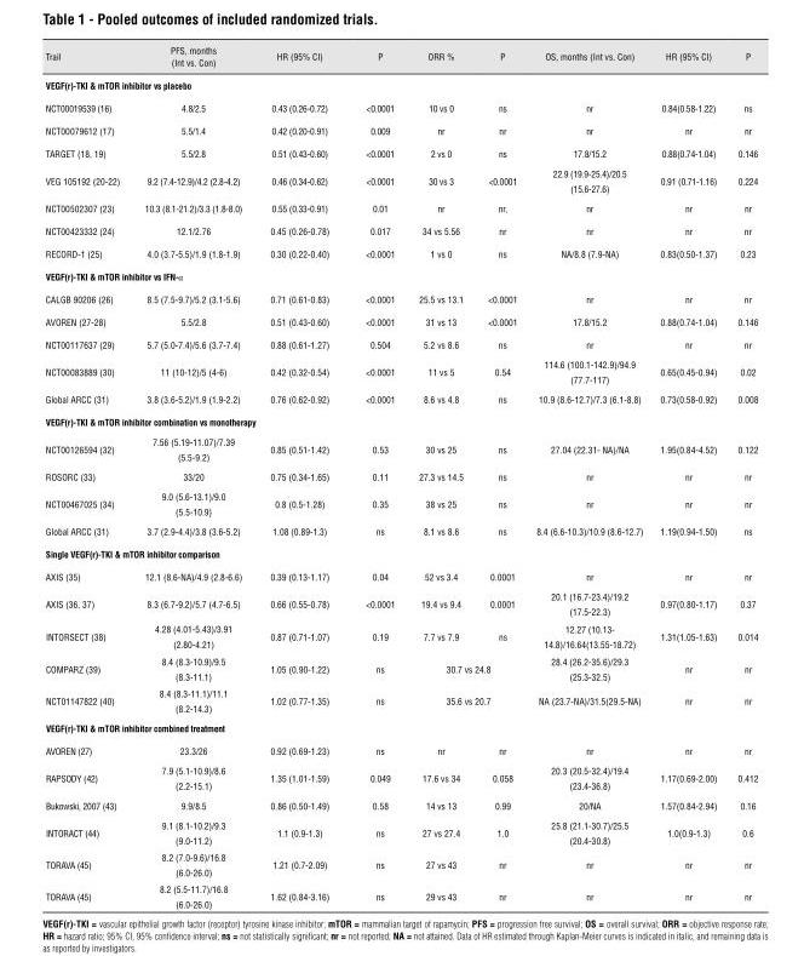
<table><thead><tr><td>Trail</td><td>PFS, months (Int vs. Con)</td><td>HR (95% CI)</td><td>P</td><td>ORR %</td><td>P</td><td>OS, months (Int vs. Con)</td><td>HR (95% CI)</td><td>P</td></tr></thead><tbody><tr><td colspan="9">vEGF(r)-TKI &amp; mTOR inhibitor vs placebo</td></tr><tr><td>NCT00019539 (16)</td><td>4.8/2.5</td><td>0.43 (0.26-0.72)</td><td>&lt;0.0001</td><td>10 vs 0</td><td>ns</td><td>nr</td><td>0.84(0.58-1.22)</td><td>ns</td></tr><tr><td>NCT00079612 (17)</td><td>5.5/1.4</td><td>0.42 (0.20-0.91)</td><td>0.009</td><td>nr</td><td>nr</td><td>nr</td><td>nr</td><td>nr</td></tr><tr><td>TARGET (18, 19)</td><td>5.5/2.8</td><td>0.51 (0.43-0.60)</td><td>&lt;0.0001</td><td>2 vs 0</td><td>ns</td><td>17.8/15.2</td><td>0.88(0.74-1.04)</td><td>0.146</td></tr><tr><td>VEG 105192 (20-22)</td><td>9.2 (7.4-12.9)/4.2 (2.8-4.2)</td><td>0.46 (0.34-0.62)</td><td>&lt;0.0001</td><td>30 vs 3</td><td>&lt;0.0001</td><td>22.9 (19.9-25.4)/20.5 (15.6-27.6)</td><td>0.91 (0.71-1.16)</td><td>0.224</td></tr><tr><td>NCT00502307 (23)</td><td>10.3 (8.1-21.2)/3.3 (1.8-8.0)</td><td>0.55 (0.33-0.91)</td><td>0.01</td><td>nr</td><td>nr,</td><td>nr</td><td>nr</td><td>nr</td></tr><tr><td>NCT00423332 (24)</td><td>12.1/2.76</td><td>0.45 (0.26-0.78)</td><td>0.017</td><td>34 vs 5.56</td><td>nr</td><td>nr</td><td>nr</td><td>nr</td></tr><tr><td>RECORD-1 (25)</td><td>4.0 (3.7-5.5)/1.9 (1.8-1.9)</td><td>0.30 (0.22-0.40)</td><td>&lt;0.0001</td><td>1 vs 0</td><td>ns</td><td>NA/8.8 (7.9-NA)</td><td>0.83(0.50-1.37)</td><td>0.23</td></tr><tr><td colspan="9">vEGF(r)-TKI &amp; mTOR inhibitor vs IFN-α</td></tr><tr><td>CALGB 90206 (26)</td><td>8.5 (7.5-9.7)/5.2 (3.1-5.6)</td><td>0.71 (0.61-0.83)</td><td>&lt;0.0001</td><td>25.5 vs 13.1</td><td>&lt;0.0001</td><td>nr</td><td>nr</td><td>nr</td></tr><tr><td>AVOREN (27-28)</td><td>5.5/2.8</td><td>0.51 (0.43-0.60)</td><td>&lt;0.0001</td><td>31 vs 13</td><td>&lt;0.0001</td><td>17.8/15.2</td><td>0.88(0.74-1.04)</td><td>0.146</td></tr><tr><td>NCT00117637 (29)</td><td>5.7 (5.0-7.4)/5.6 (3.7-7.4)</td><td>0.88 (0.61-1.27)</td><td>0.504</td><td>5.2 vs 8.6</td><td>ns</td><td>nr</td><td>nr</td><td>nr</td></tr><tr><td>NCT00083889 (30)</td><td>11 (10-12)/5 (4-6)</td><td>0.42 (0.32-0.54)</td><td>&lt;0.0001</td><td>11 vs 5</td><td>0.54</td><td>114.6 (100.1-142.9)/94.9 (77.7-117)</td><td>0.65(0.45-0.94)</td><td>0.02</td></tr><tr><td>Global ARCC (31)</td><td>3.8 (3.6-5.2)/1.9 (1.9-2.2)</td><td>0.76 (0.62-0.92)</td><td>&lt;0.0001</td><td>8.6 vs 4.8</td><td>ns</td><td>10.9 (8.6-12.7)/7.3 (6.1-8.8)</td><td>0.73(0.58-0.92)</td><td>0.008</td></tr><tr><td colspan="9">vEGF(r)-TKI &amp; mTOR inhibitor combination vs monotherapy</td></tr><tr><td>NCT00126594 (32)</td><td>7.56 (5.19-11.07)/7.39 (5.5-9.2)</td><td>0.85 (0.51-1.42)</td><td>0.53</td><td>30 vs 25</td><td>ns</td><td>27.04 (22.31- NA)/NA</td><td>1.95(0.84-4.52)</td><td>0.122</td></tr><tr><td>ROSORC (33)</td><td>33/20</td><td>0.75 (0.34-1.65)</td><td>0.11</td><td>27.3 vs 14.5</td><td>ns</td><td>nr</td><td>nr</td><td>nr</td></tr><tr><td>NCT00467025 (34)</td><td>9.0 (5.6-13.1)/9.0 (5.5-10.9)</td><td>0.8 (0.5-1.28)</td><td>0.35</td><td>38 vs 25</td><td>ns</td><td>nr</td><td>nr</td><td>nr</td></tr><tr><td>Global ARCC (31)</td><td>3.7 (2.9-4.4)/3.8 (3.6-5.2)</td><td>1.08 (0.89-1.3)</td><td>ns</td><td>8.1 vs 8.6</td><td>ns</td><td>8.4 (6.6-10.3)/10.9 (8.6-12.7)</td><td>1.19(0.94-1.50)</td><td>ns</td></tr><tr><td colspan="9">Single vEGF(r)-TKI &amp; mTOR inhibitor comparison</td></tr><tr><td>AXIS (35)</td><td>12.1 (8.6-NA)/4.9 (2.8-6.6)</td><td>0.39 (0.13-1.17)</td><td>0.04</td><td>52 vs 3.4</td><td>0.0001</td><td>nr</td><td>nr</td><td>nr</td></tr><tr><td>AXIS (36, 37)</td><td>8.3 (6.7-9.2)/5.7 (4.7-6.5)</td><td>0.66 (0.55-0.78)</td><td>&lt;0.0001</td><td>19.4 vs 9.4</td><td>0.0001</td><td>20.1 (16.7-23.4)/19.2 (17.5-22.3)</td><td>0.97(0.80-1.17)</td><td>0.37</td></tr><tr><td>INTORSECT (38)</td><td>4.28 (4.01-5.43)/3.91 (2.80-4.21)</td><td>0.87 (0.71-1.07)</td><td>0.19</td><td>7.7 vs 7.9</td><td>ns</td><td>12.27 (10.13- 14.8)/16.64(13.55-18.72)</td><td>1.31(1.05-1.63)</td><td>0.014</td></tr><tr><td>COMPARZ (39)</td><td>8.4 (8.3-10.9)/9.5 (8.3-11.1)</td><td>1.05 (0.90-1.22)</td><td>ns</td><td colspan="2">30.7 vs 24.8</td><td>28.4 (26.2-35.6)/29.3 (25.3-32.5)</td><td>nr</td><td>nr</td></tr><tr><td>NCT01147822 (40)</td><td>8.4 (8.3-11.1)/11.1 (8.2-14.3)</td><td>1.02 (0.77-1.35)</td><td>ns</td><td colspan="2">35.6 vs 20.7</td><td>NA (23.7-NA)/31.5(29.5-NA)</td><td>nr</td><td>nr</td></tr><tr><td colspan="9">vEGF(r)-TKI &amp; mTOR inhibitor combined treatment</td></tr><tr><td>AVOREN (27)</td><td>23.3/26</td><td>0.92 (0.69-1.23)</td><td>ns</td><td>nr</td><td>nr</td><td>nr</td><td>nr</td><td>nr</td></tr><tr><td>RAPSODY (42)</td><td>7.9 (5.1-10.9)/8.6 (2.2-15.1)</td><td>1.35 (1.01-1.59)</td><td>0.049</td><td>17.6 vs 34</td><td>0.058</td><td>20.3 (20.5-32.4)/19.4 (23.4-36.8)</td><td>1.17(0.69-2.00)</td><td>0.412</td></tr><tr><td>Bukowski, 2007 (43)</td><td>9.9/8.5</td><td>0.86 (0.50-1.49)</td><td>0.58</td><td>14 vs 13</td><td>0.99</td><td>20/NA</td><td>1.57(0.84-2.94)</td><td>0.16</td></tr><tr><td>INTORACT (44)</td><td>9.1 (8.1-10.2)/9.3 (9.0-11.2)</td><td>1.1 (0.9-1.3)</td><td>ns</td><td>27 vs 27.4</td><td>1.0</td><td>25.8 (21.1-30.7)/25.5 (20.4-30.8)</td><td>1.0(0.9-1.3)</td><td>0.6</td></tr><tr><td>TORAVA (45)</td><td>8.2 (7.0-9.6)/16.8 (6.0-26.0)</td><td>1.21 (0.7-2.09)</td><td>ns</td><td>27 vs 43</td><td>nr</td><td>nr</td><td>nr</td><td>nr</td></tr><tr><td>TORAVA (45)</td><td>8.2 (5.5-11.7)/16.8 (6.0-26.0)</td><td>1.62 (0.84-3.16)</td><td>ns</td><td>29 vs 43</td><td>nr</td><td>nr</td><td>nr</td><td>nr</td></tr></tbody></table>